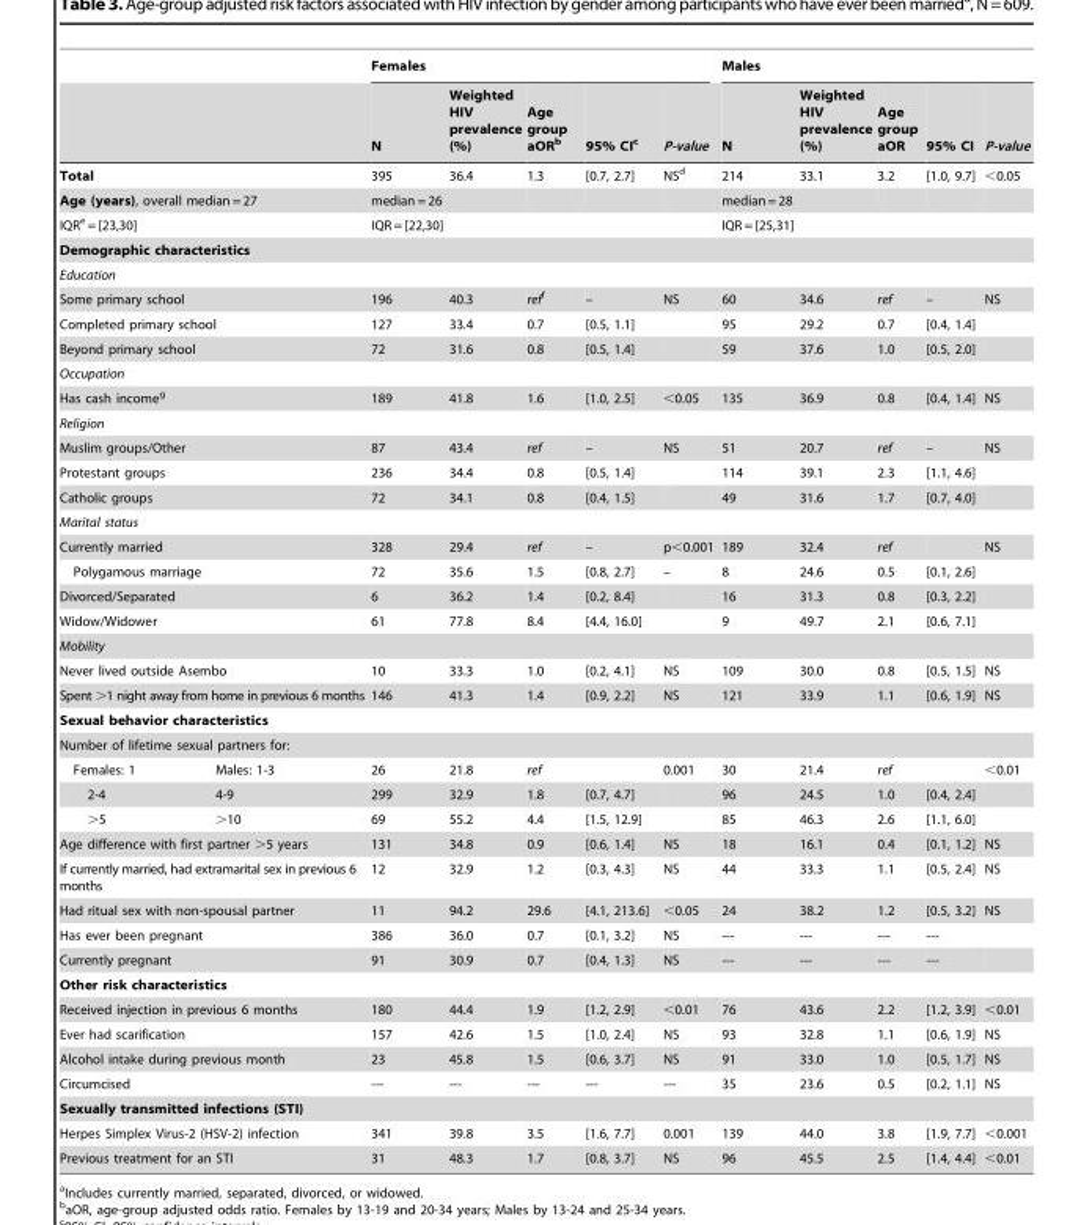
<table><thead><tr><td rowspan="2"></td><td rowspan="2"></td><td colspan="5">Females</td><td colspan="5">Males</td></tr><tr><td>N</td><td>Weighted HIV prevalence (%)</td><td>Age group aOR<sup>b</sup></td><td>95% CI<sup>c</sup></td><td>P-value</td><td>N</td><td>Weighted HIV prevalence (%)</td><td>Age group aOR</td><td>95% CI</td><td>P-value</td></tr></thead><tbody><tr><td colspan="2">Total</td><td>395</td><td>36.4</td><td>1.3</td><td>[0.7, 2.7]</td><td>NS<sup>d</sup></td><td>214</td><td>33.1</td><td>3.2</td><td>[1.0, 9.7]</td><td>&lt;0.05</td></tr><tr><td colspan="2">Age (years), overall median = 27</td><td>median = 26</td><td></td><td></td><td></td><td></td><td>median = 28</td><td></td><td></td><td></td><td></td></tr><tr><td colspan="2">IQRe = [23,30]</td><td>IQR = [22,30]</td><td></td><td></td><td></td><td></td><td>IQR = [25,31]</td><td></td><td></td><td></td><td></td></tr><tr><td colspan="12">Demographic characteristics</td></tr><tr><td colspan="12">Education</td></tr><tr><td colspan="2">Some primary school</td><td>196</td><td>40.3</td><td>reff</td><td>–</td><td>NS</td><td>60</td><td>34.6</td><td>ref</td><td>–</td><td>NS</td></tr><tr><td colspan="2">Completed primary school</td><td>127</td><td>33.4</td><td>0.7</td><td>[0.5, 1.1]</td><td></td><td>95</td><td>29.2</td><td>0.7</td><td>[0.4, 1.4]</td><td></td></tr><tr><td colspan="2">Beyond primary school</td><td>72</td><td>31.6</td><td>0.8</td><td>[0.5, 1.4]</td><td></td><td>59</td><td>37.6</td><td>1.0</td><td>[0.5, 2.0]</td><td></td></tr><tr><td colspan="12">Occupation</td></tr><tr><td colspan="2">Has cash income<sup>g</sup></td><td>189</td><td>41.8</td><td>1.6</td><td>[1.0, 2.5]</td><td>&lt;0.05</td><td>135</td><td>36.9</td><td>0.8</td><td>[0.4, 1.4]</td><td>NS</td></tr><tr><td colspan="12">Religion</td></tr><tr><td colspan="2">Muslim groups/Other</td><td>87</td><td>43.4</td><td>ref</td><td>–</td><td>NS</td><td>51</td><td>20.7</td><td>ref</td><td>–</td><td>NS</td></tr><tr><td colspan="2">Protestant groups</td><td>236</td><td>34.4</td><td>0.8</td><td>[0.5, 1.4]</td><td></td><td>114</td><td>39.1</td><td>2.3</td><td>[1.1, 4.6]</td><td></td></tr><tr><td colspan="2">Catholic groups</td><td>72</td><td>34.1</td><td>0.8</td><td>[0.4, 1.5]</td><td></td><td>49</td><td>31.6</td><td>1.7</td><td>[0.7, 4.0]</td><td></td></tr><tr><td colspan="12">Marital status</td></tr><tr><td colspan="2">Currently married</td><td>328</td><td>29.4</td><td>ref</td><td>–</td><td>p&lt;0.001</td><td>189</td><td>32.4</td><td>ref</td><td></td><td>NS</td></tr><tr><td colspan="2">Polygamous marriage</td><td>72</td><td>35.6</td><td>1.5</td><td>[0.8, 2.7]</td><td>–</td><td>8</td><td>24.6</td><td>0.5</td><td>[0.1, 2.6]</td><td></td></tr><tr><td colspan="2">Divorced/Separated</td><td>6</td><td>36.2</td><td>1.4</td><td>[0.2, 8.4]</td><td></td><td>16</td><td>31.3</td><td>0.8</td><td>[0.3, 2.2]</td><td></td></tr><tr><td colspan="2">Widow/Widower</td><td>61</td><td>77.8</td><td>8.4</td><td>[4.4, 16.0]</td><td></td><td>9</td><td>49.7</td><td>2.1</td><td>[0.6, 7.1]</td><td></td></tr><tr><td colspan="12">Mobility</td></tr><tr><td colspan="2">Never lived outside Asembo</td><td>10</td><td>33.3</td><td>1.0</td><td>[0.2, 4.1]</td><td>NS</td><td>109</td><td>30.0</td><td>0.8</td><td>[0.5, 1.5]</td><td>NS</td></tr><tr><td colspan="2">Spent &gt;1 night away from home in previous 6 months</td><td>146</td><td>41.3</td><td>1.4</td><td>[0.9, 2.2]</td><td>NS</td><td>121</td><td>33.9</td><td>1.1</td><td>[0.6, 1.9]</td><td>NS</td></tr><tr><td colspan="12">Sexual behavior characteristics</td></tr><tr><td colspan="12">Number of lifetime sexual partners for:</td></tr><tr><td>Females: 1</td><td>Males: 1-3</td><td>26</td><td>21.8</td><td>ref</td><td></td><td>0.001</td><td>30</td><td>21.4</td><td>ref</td><td></td><td>&lt;0.01</td></tr><tr><td>2-4</td><td>4-9</td><td>299</td><td>32.9</td><td>1.8</td><td>[0.7, 4.7]</td><td></td><td>96</td><td>24.5</td><td>1.0</td><td>[0.4, 2.4]</td><td></td></tr><tr><td>&gt;5</td><td>&gt;10</td><td>69</td><td>55.2</td><td>4.4</td><td>[1.5, 12.9]</td><td></td><td>85</td><td>46.3</td><td>2.6</td><td>[1.1, 6.0]</td><td></td></tr><tr><td colspan="2">Age difference with first partner &gt;5 years</td><td>131</td><td>34.8</td><td>0.9</td><td>[0.6, 1.4]</td><td>NS</td><td>18</td><td>16.1</td><td>0.4</td><td>[0.1, 1.2]</td><td>NS</td></tr><tr><td colspan="2">If currently married, had extramarital sex in previous 6 months</td><td>12</td><td>32.9</td><td>1.2</td><td>[0.3, 4.3]</td><td>NS</td><td>44</td><td>33.3</td><td>1.1</td><td>[0.5, 2.4]</td><td>NS</td></tr><tr><td colspan="2">Had ritual sex with non-spousal partner</td><td>11</td><td>94.2</td><td>29.6</td><td>[4.1, 213.6]</td><td>&lt;0.05</td><td>24</td><td>38.2</td><td>1.2</td><td>[0.5, 3.2]</td><td>NS</td></tr><tr><td colspan="2">Has ever been pregnant</td><td>386</td><td>36.0</td><td>0.7</td><td>[0.1, 3.2]</td><td>NS</td><td>---</td><td>---</td><td>---</td><td>---</td><td></td></tr><tr><td colspan="2">Currently pregnant</td><td>91</td><td>30.9</td><td>0.7</td><td>[0.4, 1.3]</td><td>NS</td><td>---</td><td>---</td><td>---</td><td>---</td><td></td></tr><tr><td colspan="12">Other risk characteristics</td></tr><tr><td colspan="2">Received injection in previous 6 months</td><td>180</td><td>44.4</td><td>1.9</td><td>[1.2, 2.9]</td><td>&lt;0.01</td><td>76</td><td>43.6</td><td>2.2</td><td>[1.2, 3.9]</td><td>&lt;0.01</td></tr><tr><td colspan="2">Ever had scarification</td><td>157</td><td>42.6</td><td>1.5</td><td>[1.0, 2.4]</td><td>NS</td><td>93</td><td>32.8</td><td>1.1</td><td>[0.6, 1.9]</td><td>NS</td></tr><tr><td colspan="2">Alcohol intake during previous month</td><td>23</td><td>45.8</td><td>1.5</td><td>[0.6, 3.7]</td><td>NS</td><td>91</td><td>33.0</td><td>1.0</td><td>[0.5, 1.7]</td><td>NS</td></tr><tr><td colspan="2">Circumcised</td><td>---</td><td>---</td><td>---</td><td>---</td><td>---</td><td>35</td><td>23.6</td><td>0.5</td><td>[0.2, 1.1]</td><td>NS</td></tr><tr><td colspan="12">Sexually transmitted infections (STI)</td></tr><tr><td colspan="2">Herpes Simplex Virus-2 (HSV-2) infection</td><td>341</td><td>39.8</td><td>3.5</td><td>[1.6, 7.7]</td><td>0.001</td><td>139</td><td>44.0</td><td>3.8</td><td>[1.9, 7.7]</td><td>&lt;0.001</td></tr><tr><td colspan="2">Previous treatment for an STI</td><td>31</td><td>48.3</td><td>1.7</td><td>[0.8, 3.7]</td><td>NS</td><td>96</td><td>45.5</td><td>2.5</td><td>[1.4, 4.4]</td><td>&lt;0.01</td></tr></tbody></table>